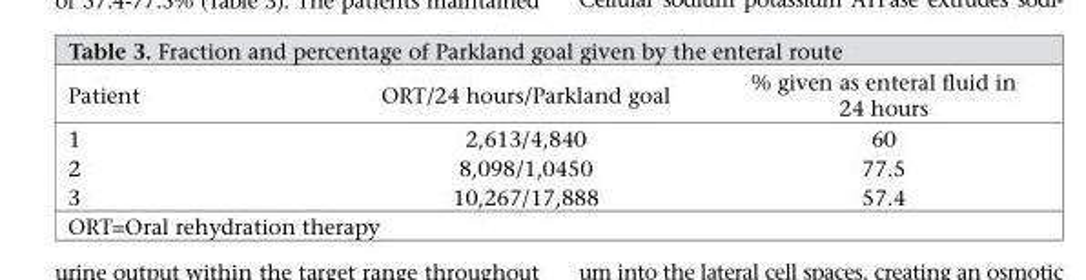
<table><thead><tr><td>Patient</td><td>ORT/24 hours/Parkland goal</td><td>% given as enteral fluid in 24 hours</td></tr></thead><tbody><tr><td>1</td><td>2,613/4,840</td><td>60</td></tr><tr><td>2</td><td>8,098/1,0450</td><td>77.5</td></tr><tr><td>3</td><td>10,267/17,888</td><td>57.4</td></tr></tbody></table>